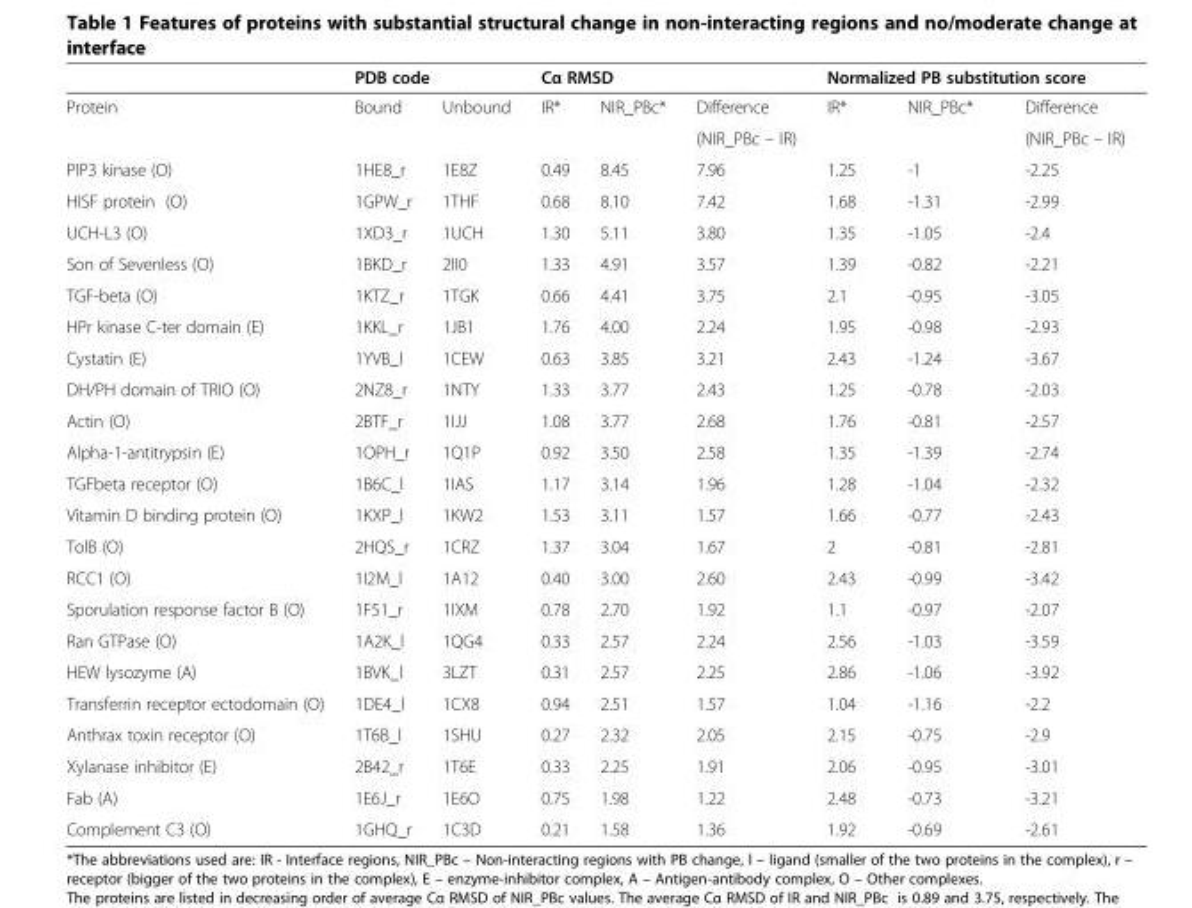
<table><thead><tr><td rowspan="2">Protein</td><td colspan="2">PDB code</td><td colspan="3">Cα RMSD</td><td colspan="3">Normalized PB substitution score</td></tr><tr><td>Bound</td><td>Unbound</td><td>IR*</td><td>NIR_PBc*</td><td>Difference</td><td>IR*</td><td>NIR_PBc*</td><td>Difference</td></tr></thead><tbody><tr><td></td><td></td><td></td><td></td><td></td><td>(NIR_PBc – IR)</td><td></td><td></td><td>(NIR_PBc – IR)</td></tr><tr><td>PIP3 kinase (O)</td><td>1HE8_r</td><td>1E8Z</td><td>0.49</td><td>8.45</td><td>7.96</td><td>1.25</td><td>-1</td><td>-2.25</td></tr><tr><td>HISF protein (O)</td><td>1GPW_r</td><td>1THF</td><td>0.68</td><td>8.10</td><td>7.42</td><td>1.68</td><td>-1.31</td><td>-2.99</td></tr><tr><td>UCH-L3 (O)</td><td>1XD3_r</td><td>1UCH</td><td>1.30</td><td>5.11</td><td>3.80</td><td>1.35</td><td>-1.05</td><td>-2.4</td></tr><tr><td>Son of Sevenless (O)</td><td>1BKD_r</td><td>2II0</td><td>1.33</td><td>4.91</td><td>3.57</td><td>1.39</td><td>-0.82</td><td>-2.21</td></tr><tr><td>TGF-beta (O)</td><td>1KTZ_r</td><td>1TGK</td><td>0.66</td><td>4.41</td><td>3.75</td><td>2.1</td><td>-0.95</td><td>-3.05</td></tr><tr><td>HPr kinase C-ter domain (E)</td><td>1KKL_r</td><td>1JB1</td><td>1.76</td><td>4.00</td><td>2.24</td><td>1.95</td><td>-0.98</td><td>-2.93</td></tr><tr><td>Cystatin (E)</td><td>1YVB_l</td><td>1CEW</td><td>0.63</td><td>3.85</td><td>3.21</td><td>2.43</td><td>-1.24</td><td>-3.67</td></tr><tr><td>DH/PH domain of TRIO (O)</td><td>2NZ8_r</td><td>1NTY</td><td>1.33</td><td>3.77</td><td>2.43</td><td>1.25</td><td>-0.78</td><td>-2.03</td></tr><tr><td>Actin (O)</td><td>2BTF_r</td><td>1IJJ</td><td>1.08</td><td>3.77</td><td>2.68</td><td>1.76</td><td>-0.81</td><td>-2.57</td></tr><tr><td>Alpha-1-antitrypsin (E)</td><td>1OPH_r</td><td>1Q1P</td><td>0.92</td><td>3.50</td><td>2.58</td><td>1.35</td><td>-1.39</td><td>-2.74</td></tr><tr><td>TGFbeta receptor (O)</td><td>1B6C_l</td><td>1IAS</td><td>1.17</td><td>3.14</td><td>1.96</td><td>1.28</td><td>-1.04</td><td>-2.32</td></tr><tr><td>Vitamin D binding protein (O)</td><td>1KXP_l</td><td>1KW2</td><td>1.53</td><td>3.11</td><td>1.57</td><td>1.66</td><td>-0.77</td><td>-2.43</td></tr><tr><td>TolB (O)</td><td>2HQS_r</td><td>1CRZ</td><td>1.37</td><td>3.04</td><td>1.67</td><td>2</td><td>-0.81</td><td>-2.81</td></tr><tr><td>RCC1 (O)</td><td>1I2M_l</td><td>1A12</td><td>0.40</td><td>3.00</td><td>2.60</td><td>2.43</td><td>-0.99</td><td>-3.42</td></tr><tr><td>Sporulation response factor B (O)</td><td>1F51_r</td><td>1IXM</td><td>0.78</td><td>2.70</td><td>1.92</td><td>1.1</td><td>-0.97</td><td>-2.07</td></tr><tr><td>Ran GTPase (O)</td><td>1A2K_l</td><td>1QG4</td><td>0.33</td><td>2.57</td><td>2.24</td><td>2.56</td><td>-1.03</td><td>-3.59</td></tr><tr><td>HEW lysozyme (A)</td><td>1BVK_l</td><td>3LZT</td><td>0.31</td><td>2.57</td><td>2.25</td><td>2.86</td><td>-1.06</td><td>-3.92</td></tr><tr><td>Transferrin receptor ectodomain (O)</td><td>1DE4_l</td><td>1CX8</td><td>0.94</td><td>2.51</td><td>1.57</td><td>1.04</td><td>-1.16</td><td>-2.2</td></tr><tr><td>Anthrax toxin receptor (O)</td><td>1T6B_l</td><td>1SHU</td><td>0.27</td><td>2.32</td><td>2.05</td><td>2.15</td><td>-0.75</td><td>-2.9</td></tr><tr><td>Xylanase inhibitor (E)</td><td>2B42_r</td><td>1T6E</td><td>0.33</td><td>2.25</td><td>1.91</td><td>2.06</td><td>-0.95</td><td>-3.01</td></tr><tr><td>Fab (A)</td><td>1E6J_r</td><td>1E6O</td><td>0.75</td><td>1.98</td><td>1.22</td><td>2.48</td><td>-0.73</td><td>-3.21</td></tr><tr><td>Complement C3 (O)</td><td>1GHQ_r</td><td>1C3D</td><td>0.21</td><td>1.58</td><td>1.36</td><td>1.92</td><td>-0.69</td><td>-2.61</td></tr></tbody></table>